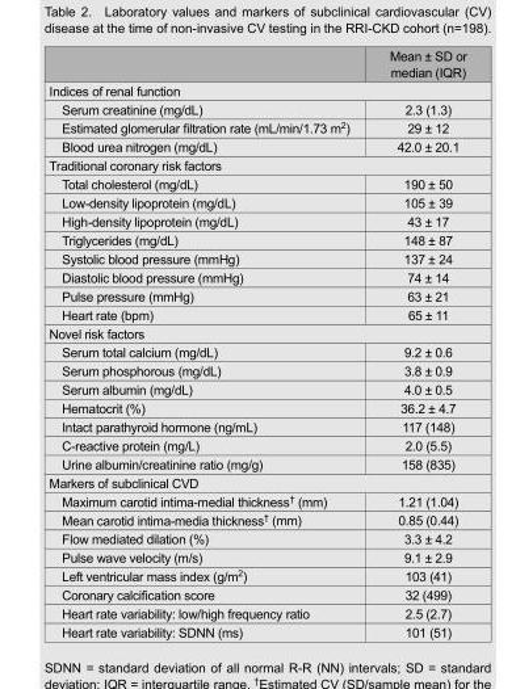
<table><thead><tr><td></td><td>Mean ± SD or median (IQR)</td></tr></thead><tbody><tr><td colspan="2">Indices of renal function</td></tr><tr><td>Serum creatinine (mg/dL)</td><td>2.3 (1.3)</td></tr><tr><td>Estimated glomerular filtration rate (mL/min/1.73 m<sup>2</sup>)</td><td>29 ± 12</td></tr><tr><td>Blood urea nitrogen (mg/dL)</td><td>42.0 ± 20.1</td></tr><tr><td colspan="2">Traditional coronary risk factors</td></tr><tr><td>Total cholesterol (mg/dL)</td><td>190 ± 50</td></tr><tr><td>Low-density lipoprotein (mg/dL)</td><td>105 ± 39</td></tr><tr><td>High-density lipoprotein (mg/dL)</td><td>43 ± 17</td></tr><tr><td>Triglycerides (mg/dL)</td><td>148 ± 87</td></tr><tr><td>Systolic blood pressure (mmHg)</td><td>137 ± 24</td></tr><tr><td>Diastolic blood pressure (mmHg)</td><td>74 ± 14</td></tr><tr><td>Pulse pressure (mmHg)</td><td>63 ± 21</td></tr><tr><td>Heart rate (bpm)</td><td>65 ± 11</td></tr><tr><td colspan="2">Novel risk factors</td></tr><tr><td>Serum total calcium (mg/dL)</td><td>9.2 ± 0.6</td></tr><tr><td>Serum phosphorous (mg/dL)</td><td>3.8 ± 0.9</td></tr><tr><td>Serum albumin (mg/dL)</td><td>4.0 ± 0.5</td></tr><tr><td>Hematocrit (%)</td><td>36.2 ± 4.7</td></tr><tr><td>Intact parathyroid hormone (ng/mL)</td><td>117 (148)</td></tr><tr><td>C-reactive protein (mg/L)</td><td>2.0 (5.5)</td></tr><tr><td>Urine albumin/creatinine ratio (mg/g)</td><td>158 (835)</td></tr><tr><td colspan="2">Markers of subclinical CVD</td></tr><tr><td>Maximum carotid intima-medial thickness<sup>†</sup> (mm)</td><td>1.21 (1.04)</td></tr><tr><td>Mean carotid intima-media thickness<sup>†</sup> (mm)</td><td>0.85 (0.44)</td></tr><tr><td>Flow mediated dilation (%)</td><td>3.3 ± 4.2</td></tr><tr><td>Pulse wave velocity (m/s)</td><td>9.1 ± 2.9</td></tr><tr><td>Left ventricular mass index (g/m<sup>2</sup>)</td><td>103 (41)</td></tr><tr><td>Coronary calcification score</td><td>32 (499)</td></tr><tr><td>Heart rate variability: low/high frequency ratio</td><td>2.5 (2.7)</td></tr><tr><td>Heart rate variability: SDNN (ms)</td><td>101 (51)</td></tr></tbody></table>